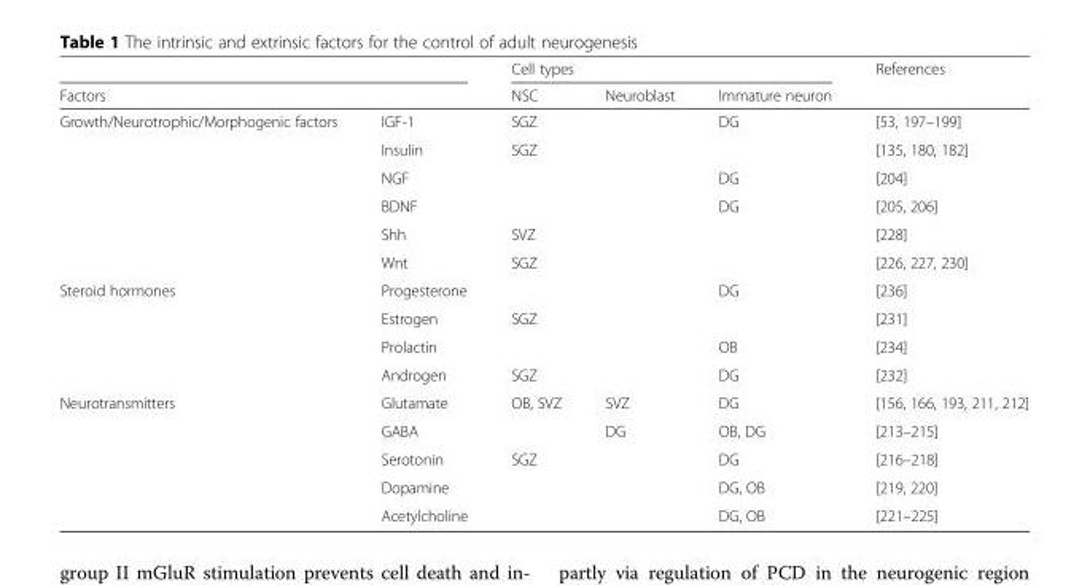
<table><thead><tr><td></td><td></td><td colspan="3">Cell types</td><td rowspan="2">References</td></tr><tr><td colspan="2">Factors</td><td>NSC</td><td>Neuroblast</td><td>Immature neuron</td></tr></thead><tbody><tr><td rowspan="6">Growth/Neurotrophic/Morphogenic factors</td><td>IGF-1</td><td>SGZ</td><td></td><td>DG</td><td>[53, 197–199]</td></tr><tr><td>Insulin</td><td>SGZ</td><td></td><td></td><td>[135, 180, 182]</td></tr><tr><td>NGF</td><td></td><td></td><td>DG</td><td>[204]</td></tr><tr><td>BDNF</td><td></td><td></td><td>DG</td><td>[205, 206]</td></tr><tr><td>Shh</td><td>SVZ</td><td></td><td></td><td>[228]</td></tr><tr><td>Wnt</td><td>SGZ</td><td></td><td></td><td>[226, 227, 230]</td></tr><tr><td rowspan="4">Steroid hormones</td><td>Progesterone</td><td></td><td></td><td>DG</td><td>[236]</td></tr><tr><td>Estrogen</td><td>SGZ</td><td></td><td></td><td>[231]</td></tr><tr><td>Prolactin</td><td></td><td></td><td>OB</td><td>[234]</td></tr><tr><td>Androgen</td><td>SGZ</td><td></td><td>DG</td><td>[232]</td></tr><tr><td rowspan="5">Neurotransmitters</td><td>Glutamate</td><td>OB, SVZ</td><td>SVZ</td><td>DG</td><td>[156, 166, 193, 211, 212]</td></tr><tr><td>GABA</td><td></td><td>DG</td><td>OB, DG</td><td>[213–215]</td></tr><tr><td>Serotonin</td><td>SGZ</td><td></td><td>DG</td><td>[216–218]</td></tr><tr><td>Dopamine</td><td></td><td></td><td>DG, OB</td><td>[219, 220]</td></tr><tr><td>Acetylcholine</td><td></td><td></td><td>DG, OB</td><td>[221–225]</td></tr></tbody></table>